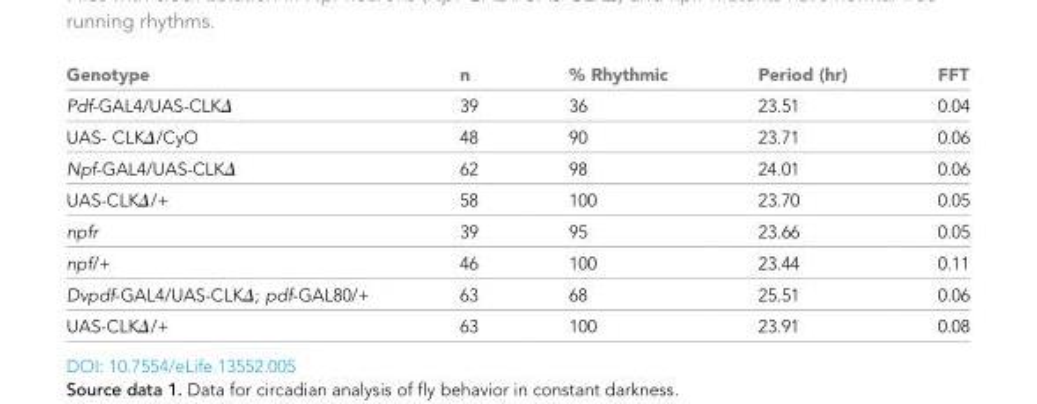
<table><thead><tr><td>Genotype</td><td>n</td><td>% Rhythmic</td><td>Period (hr)</td><td>FFT</td></tr></thead><tbody><tr><td>Pdf-GAL4/UAS-CLKΔ</td><td>39</td><td>36</td><td>23.51</td><td>0.04</td></tr><tr><td>UAS- CLKΔ/CyO</td><td>48</td><td>90</td><td>23.71</td><td>0.06</td></tr><tr><td>Npf-GAL4/UAS-CLKΔ</td><td>62</td><td>98</td><td>24.01</td><td>0.06</td></tr><tr><td>UAS-CLKΔ/+</td><td>58</td><td>100</td><td>23.70</td><td>0.05</td></tr><tr><td>npfr</td><td>39</td><td>95</td><td>23.66</td><td>0.05</td></tr><tr><td>npf/+</td><td>46</td><td>100</td><td>23.44</td><td>0.11</td></tr><tr><td>Dvpdf-GAL4/UAS-CLKΔ; pdf-GAL80/+</td><td>63</td><td>68</td><td>25.51</td><td>0.06</td></tr><tr><td>UAS-CLKΔ/+</td><td>63</td><td>100</td><td>23.91</td><td>0.08</td></tr></tbody></table>